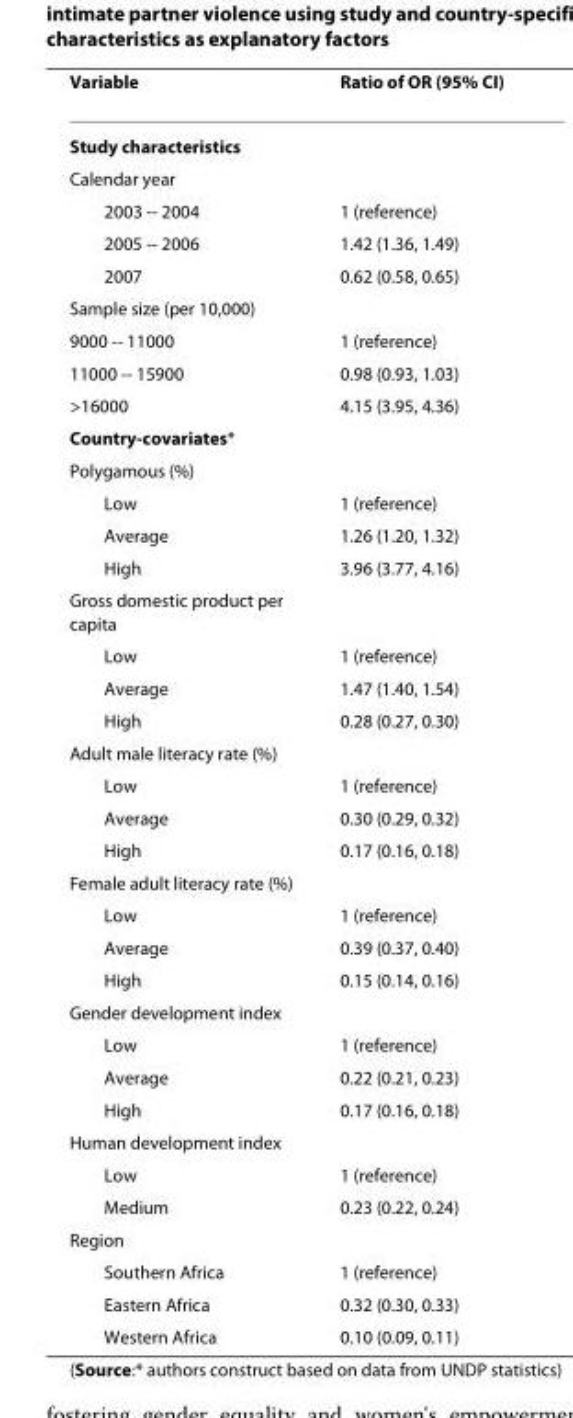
<table><thead><tr><td>Variable</td><td>Ratio of OR (95% CI)</td></tr></thead><tbody><tr><td colspan="2">Study characteristics</td></tr><tr><td colspan="2">Calendar year</td></tr><tr><td>2003 -- 2004</td><td>1 (reference)</td></tr><tr><td>2005 -- 2006</td><td>1.42 (1.36, 1.49)</td></tr><tr><td>2007</td><td>0.62 (0.58, 0.65)</td></tr><tr><td colspan="2">Sample size (per 10,000)</td></tr><tr><td>9000 -- 11000</td><td>1 (reference)</td></tr><tr><td>11000 -- 15900</td><td>0.98 (0.93, 1.03)</td></tr><tr><td>&gt;16000</td><td>4.15 (3.95, 4.36)</td></tr><tr><td colspan="2">Country-covariates*</td></tr><tr><td colspan="2">Polygamous (%)</td></tr><tr><td>Low</td><td>1 (reference)</td></tr><tr><td>Average</td><td>1.26 (1.20, 1.32)</td></tr><tr><td>High</td><td>3.96 (3.77, 4.16)</td></tr><tr><td colspan="2">Gross domestic product per capita</td></tr><tr><td>Low</td><td>1 (reference)</td></tr><tr><td>Average</td><td>1.47 (1.40, 1.54)</td></tr><tr><td>High</td><td>0.28 (0.27, 0.30)</td></tr><tr><td colspan="2">Adult male literacy rate (%)</td></tr><tr><td>Low</td><td>1 (reference)</td></tr><tr><td>Average</td><td>0.30 (0.29, 0.32)</td></tr><tr><td>High</td><td>0.17 (0.16, 0.18)</td></tr><tr><td colspan="2">Female adult literacy rate (%)</td></tr><tr><td>Low</td><td>1 (reference)</td></tr><tr><td>Average</td><td>0.39 (0.37, 0.40)</td></tr><tr><td>High</td><td>0.15 (0.14, 0.16)</td></tr><tr><td colspan="2">Gender development index</td></tr><tr><td>Low</td><td>1 (reference)</td></tr><tr><td>Average</td><td>0.22 (0.21, 0.23)</td></tr><tr><td>High</td><td>0.17 (0.16, 0.18)</td></tr><tr><td colspan="2">Human development index</td></tr><tr><td>Low</td><td>1 (reference)</td></tr><tr><td>Medium</td><td>0.23 (0.22, 0.24)</td></tr><tr><td colspan="2">Region</td></tr><tr><td>Southern Africa</td><td>1 (reference)</td></tr><tr><td>Eastern Africa</td><td>0.32 (0.30, 0.33)</td></tr><tr><td>Western Africa</td><td>0.10 (0.09, 0.11)</td></tr></tbody></table>